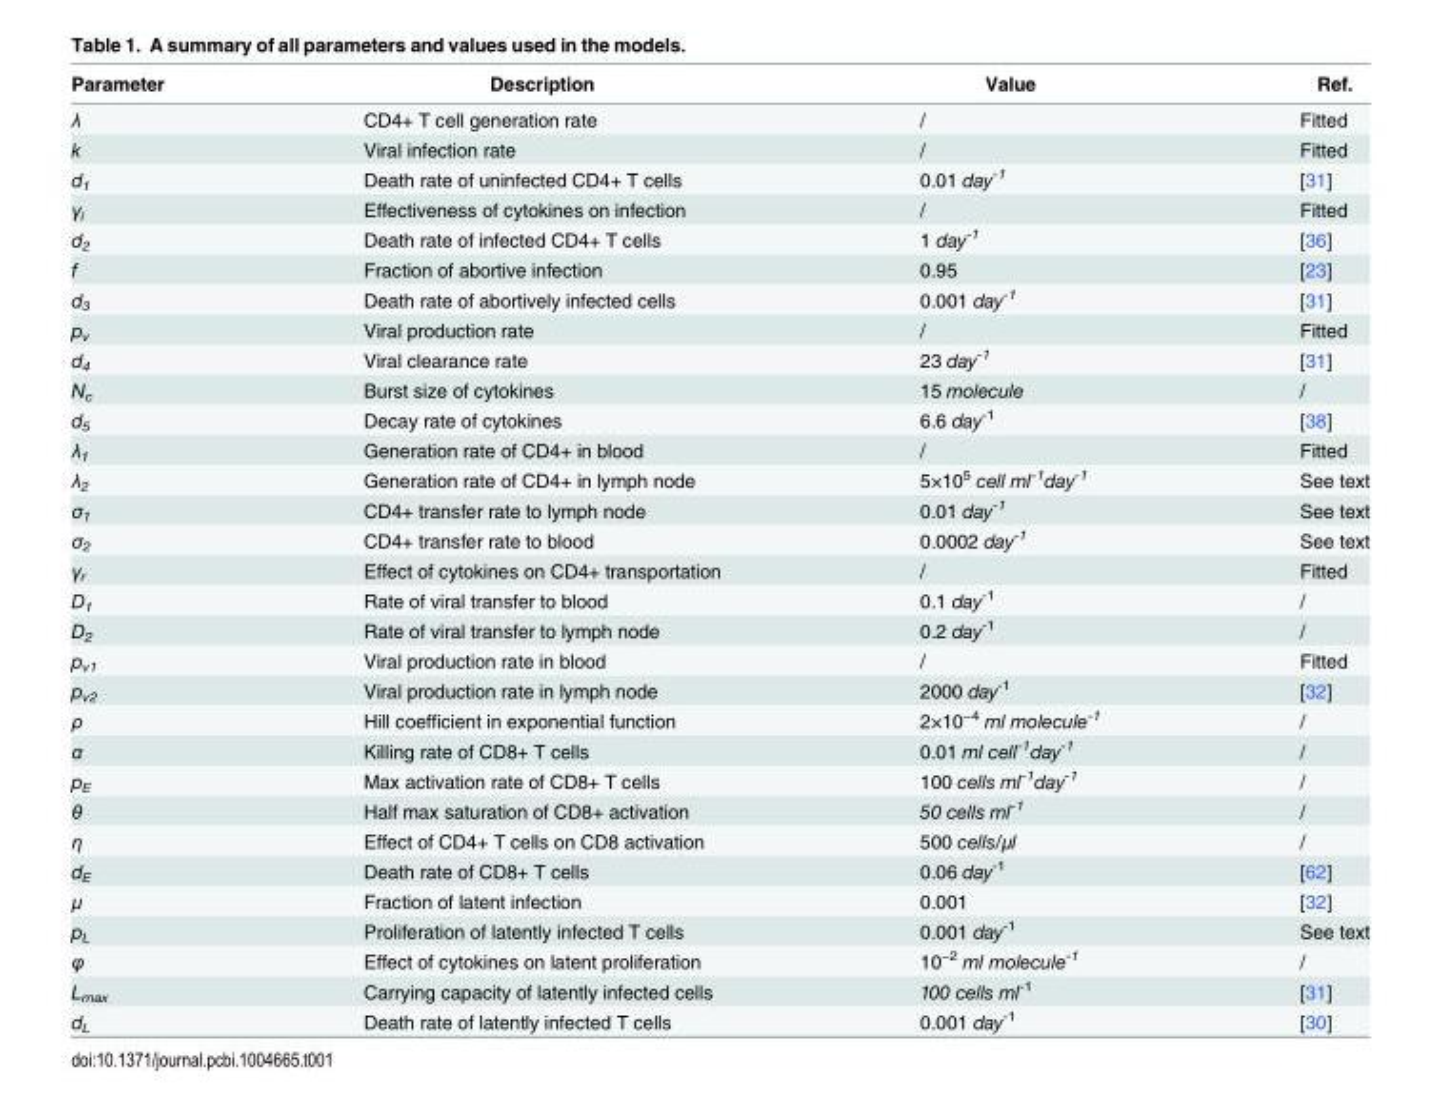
<table><thead><tr><td>Parameter</td><td>Description</td><td>Value</td><td>Ref.</td></tr></thead><tbody><tr><td>λ</td><td>CD4+ T cell generation rate</td><td>/</td><td>Fitted</td></tr><tr><td>k</td><td>Viral infection rate</td><td>/</td><td>Fitted</td></tr><tr><td>d<sub>1</sub></td><td>Death rate of uninfected CD4+ T cells</td><td>0.01 day<sup>-1</sup></td><td>[31]</td></tr><tr><td>γ<sub>i</sub></td><td>Effectiveness of cytokines on infection</td><td>/</td><td>Fitted</td></tr><tr><td>d<sub>2</sub></td><td>Death rate of infected CD4+ T cells</td><td>1 day<sup>-1</sup></td><td>[36]</td></tr><tr><td>f</td><td>Fraction of abortive infection</td><td>0.95</td><td>[23]</td></tr><tr><td>d<sub>3</sub></td><td>Death rate of abortively infected cells</td><td>0.001 day<sup>-1</sup></td><td>[31]</td></tr><tr><td>p<sub>v</sub></td><td>Viral production rate</td><td>/</td><td>Fitted</td></tr><tr><td>d<sub>4</sub></td><td>Viral clearance rate</td><td>23 day<sup>-1</sup></td><td>[31]</td></tr><tr><td>N<sub>c</sub></td><td>Burst size of cytokines</td><td>15 molecule</td><td>/</td></tr><tr><td>d<sub>5</sub></td><td>Decay rate of cytokines</td><td>6.6 day<sup>-1</sup></td><td>[38]</td></tr><tr><td>λ<sub>1</sub></td><td>Generation rate of CD4+ in blood</td><td>/</td><td>Fitted</td></tr><tr><td>λ<sub>2</sub></td><td>Generation rate of CD4+ in lymph node</td><td>5×10<sup>5</sup> cell ml<sup>-1</sup>day<sup>-1</sup></td><td>See text</td></tr><tr><td>σ<sub>1</sub></td><td>CD4+ transfer rate to lymph node</td><td>0.01 day<sup>-1</sup></td><td>See text</td></tr><tr><td>σ<sub>2</sub></td><td>CD4+ transfer rate to blood</td><td>0.0002 day<sup>-1</sup></td><td>See text</td></tr><tr><td>γ<sub>r</sub></td><td>Effect of cytokines on CD4+ transportation</td><td>/</td><td>Fitted</td></tr><tr><td>D<sub>1</sub></td><td>Rate of viral transfer to blood</td><td>0.1 day<sup>-1</sup></td><td>/</td></tr><tr><td>D<sub>2</sub></td><td>Rate of viral transfer to lymph node</td><td>0.2 day<sup>-1</sup></td><td>/</td></tr><tr><td>p<sub>v1</sub></td><td>Viral production rate in blood</td><td>/</td><td>Fitted</td></tr><tr><td>p<sub>v2</sub></td><td>Viral production rate in lymph node</td><td>2000 day<sup>-1</sup></td><td>[32]</td></tr><tr><td>ρ</td><td>Hill coefficient in exponential function</td><td>2×10<sup>−4</sup> ml molecule<sup>-1</sup></td><td>/</td></tr><tr><td>α</td><td>Killing rate of CD8+ T cells</td><td>0.01 ml cell<sup>-1</sup>day<sup>-1</sup></td><td>/</td></tr><tr><td>p<sub>E</sub></td><td>Max activation rate of CD8+ T cells</td><td>100 cells ml<sup>-1</sup>day<sup>-1</sup></td><td>/</td></tr><tr><td>θ</td><td>Half max saturation of CD8+ activation</td><td>50 cells ml<sup>-1</sup></td><td>/</td></tr><tr><td>η</td><td>Effect of CD4+ T cells on CD8 activation</td><td>500 cells/μl</td><td>/</td></tr><tr><td>d<sub>E</sub></td><td>Death rate of CD8+ T cells</td><td>0.06 day<sup>-1</sup></td><td>[62]</td></tr><tr><td>μ</td><td>Fraction of latent infection</td><td>0.001</td><td>[32]</td></tr><tr><td>p<sub>L</sub></td><td>Proliferation of latently infected T cells</td><td>0.001 day<sup>-1</sup></td><td>See text</td></tr><tr><td>φ</td><td>Effect of cytokines on latent proliferation</td><td>10<sup>−2</sup> ml molecule<sup>-1</sup></td><td>/</td></tr><tr><td>L<sub>max</sub></td><td>Carrying capacity of latently infected cells</td><td>100 cells ml<sup>-1</sup></td><td>[31]</td></tr><tr><td>d<sub>L</sub></td><td>Death rate of latently infected T cells</td><td>0.001 day<sup>-1</sup></td><td>[30]</td></tr></tbody></table>